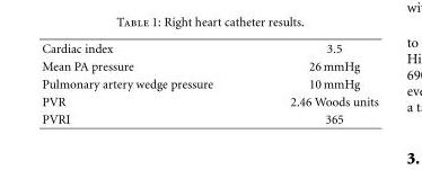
<table><tbody><tr><td>Cardiac index</td><td>3.5</td></tr><tr><td>Mean PA pressure</td><td>26 mmHg</td></tr><tr><td>Pulmonary artery wedge pressure</td><td>10 mmHg</td></tr><tr><td>PVR</td><td>2.46 Woods units</td></tr><tr><td>PVRI</td><td>365</td></tr></tbody></table>